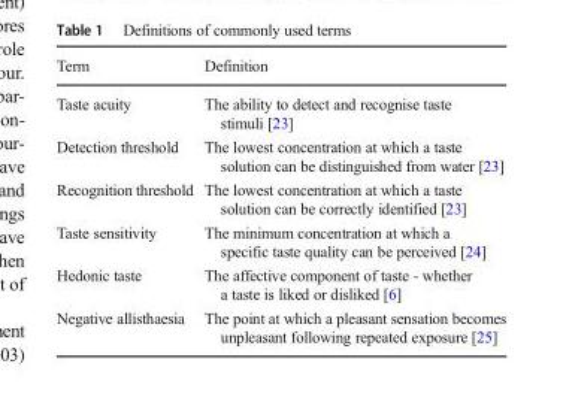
<table><thead><tr><td>Term</td><td>Definition</td></tr></thead><tbody><tr><td>Taste acuity</td><td>The ability to detect and recognise taste stimuli [23]</td></tr><tr><td>Detection threshold</td><td>The lowest concentration at which a taste solution can be distinguished from water [23]</td></tr><tr><td>Recognition threshold</td><td>The lowest concentration at which a taste solution can be correctly identified [23]</td></tr><tr><td>Taste sensitivity</td><td>The minimum concentration at which a specific taste quality can be perceived [24]</td></tr><tr><td>Hedonic taste</td><td>The affective component of taste - whether a taste is liked or disliked [6]</td></tr><tr><td>Negative allisthaesia</td><td>The point at which a pleasant sensation becomes unpleasant following repeated exposure [25]</td></tr></tbody></table>